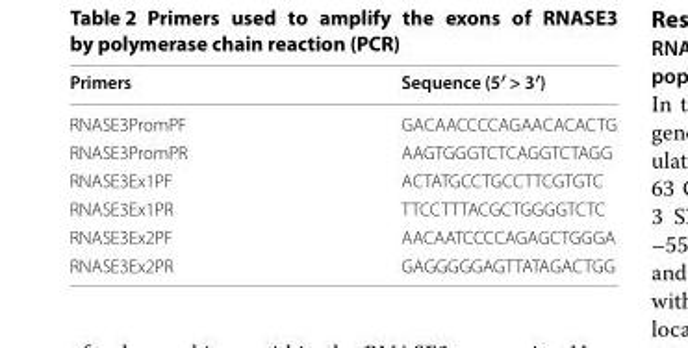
<table><thead><tr><td>Primers</td><td>Sequence (5′ &gt; 3′)</td></tr></thead><tbody><tr><td>RNASE3PromPF</td><td>GACAACCCCAGAACACACTG</td></tr><tr><td>RNASE3PromPR</td><td>AAGTGGGTCTCAGGTCTAGG</td></tr><tr><td>RNASE3Ex1PF</td><td>ACTATGCCTGCCTTCGTGTC</td></tr><tr><td>RNASE3Ex1PR</td><td>TTCCTTTACGCTGGGGTCTC</td></tr><tr><td>RNASE3Ex2PF</td><td>AACAATCCCCAGAGCTGGGA</td></tr><tr><td>RNASE3Ex2PR</td><td>GAGGGGGAGTTATAGACTGG</td></tr></tbody></table>